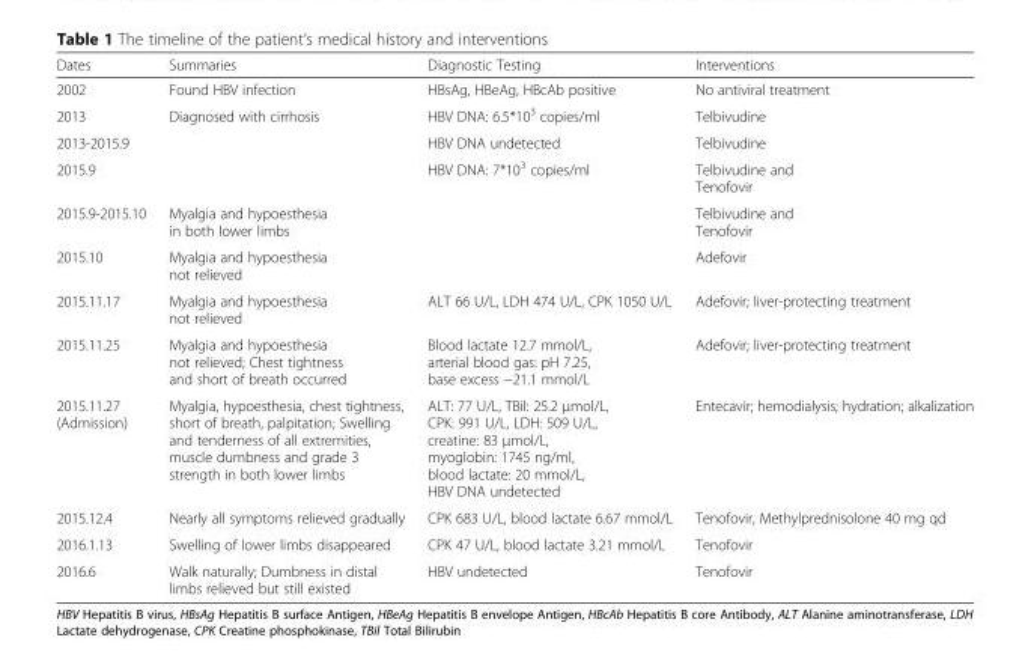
<table><thead><tr><td>Dates</td><td>Summaries</td><td>Diagnostic Testing</td><td>Interventions</td></tr></thead><tbody><tr><td>2002</td><td>Found HBV infection</td><td>HBsAg, HBeAg, HBcAb positive</td><td>No antiviral treatment</td></tr><tr><td>2013</td><td>Diagnosed with cirrhosis</td><td>HBV DNA: 6.5*10<sup>3</sup> copies/ml</td><td>Telbivudine</td></tr><tr><td>2013-2015.9</td><td></td><td>HBV DNA undetected</td><td>Telbivudine</td></tr><tr><td>2015.9</td><td></td><td>HBV DNA: 7*10<sup>3</sup> copies/ml</td><td>Telbivudine and Tenofovir</td></tr><tr><td>2015.9-2015.10</td><td>Myalgia and hypoesthesia in both lower limbs</td><td></td><td>Telbivudine and Tenofovir</td></tr><tr><td>2015.10</td><td>Myalgia and hypoesthesia not relieved</td><td></td><td>Adefovir</td></tr><tr><td>2015.11.17</td><td>Myalgia and hypoesthesia not relieved</td><td>ALT 66 U/L, LDH 474 U/L, CPK 1050 U/L</td><td>Adefovir; liver-protecting treatment</td></tr><tr><td>2015.11.25</td><td>Myalgia and hypoesthesia not relieved; Chest tightness and short of breath occurred</td><td>Blood lactate 12.7 mmol/L, arterial blood gas: pH 7.25, base excess −21.1 mmol/L</td><td>Adefovir; liver-protecting treatment</td></tr><tr><td>2015.11.27 (Admission)</td><td>Myalgia, hypoesthesia, chest tightness, short of breath, palpitation; Swelling and tenderness of all extremities, muscle dumbness and grade 3 strength in both lower limbs</td><td>ALT: 77 U/L, TBil: 25.2 μmol/L, CPK: 991 U/L, LDH: 509 U/L, creatine: 83 μmol/L, myoglobin: 1745 ng/ml, blood lactate: 20 mmol/L, HBV DNA undetected</td><td>Entecavir; hemodialysis; hydration; alkalization</td></tr><tr><td>2015.12.4</td><td>Nearly all symptoms relieved gradually</td><td>CPK 683 U/L, blood lactate 6.67 mmol/L</td><td>Tenofovir, Methylprednisolone 40 mg qd</td></tr><tr><td>2016.1.13</td><td>Swelling of lower limbs disappeared</td><td>CPK 47 U/L, blood lactate 3.21 mmol/L</td><td>Tenofovir</td></tr><tr><td>2016.6</td><td>Walk naturally; Dumbness in distal limbs relieved but still existed</td><td>HBV undetected</td><td>Tenofovir</td></tr></tbody></table>